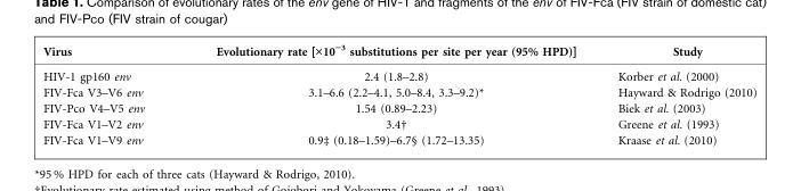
<table><thead><tr><td>Virus</td><td>Evolutionary rate [�10”3 substitutions per site per year (95% HPD)]</td><td>Study</td></tr></thead><tbody><tr><td>HIV-1 gp160 env</td><td>2.4 (1.8–2.8)</td><td>Korber et al. (2000)</td></tr><tr><td>FIV-Fca V3–V6 env</td><td>3.1–6.6 (2.2–4.1, 5.0–8.4, 3.3–9.2)*</td><td>Hayward &amp; Rodrigo (2010)</td></tr><tr><td>FIV-Pco V4–V5 env</td><td>1.54 (0.89–2.23)</td><td>Biek et al. (2003)</td></tr><tr><td>FIV-Fca V1–V2 env</td><td>3.4†</td><td>Greene et al. (1993)</td></tr><tr><td>FIV-Fca V1–V9 env</td><td>0.9‡ (0.18–1.59)–6.7§ (1.72–13.35)</td><td>Kraase et al. (2010)</td></tr></tbody></table>